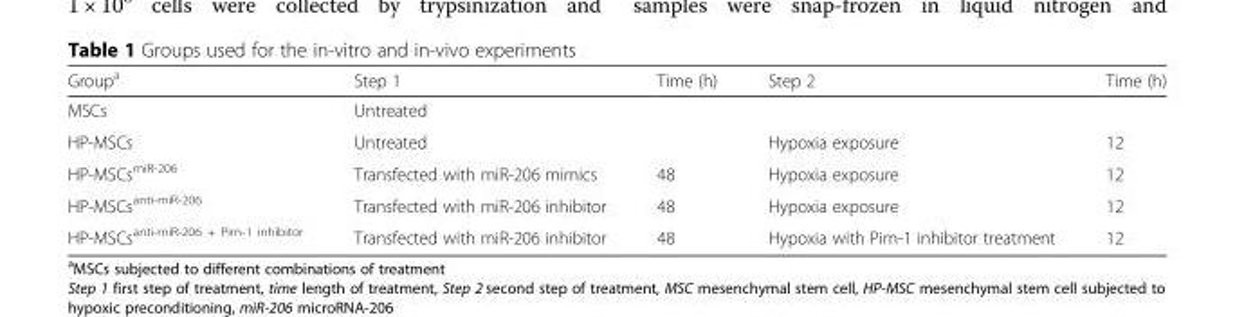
<table><thead><tr><td>Group<sup>a</sup></td><td>Step 1</td><td>Time (h)</td><td>Step 2</td><td>Time (h)</td></tr></thead><tbody><tr><td>MSCs</td><td>Untreated</td><td></td><td></td><td></td></tr><tr><td>HP-MSCs</td><td>Untreated</td><td></td><td>Hypoxia exposure</td><td>12</td></tr><tr><td>HP-MSCs<sup>miR-206</sup></td><td>Transfected with miR-206 mimics</td><td>48</td><td>Hypoxia exposure</td><td>12</td></tr><tr><td>HP-MSCs<sup>anti-miR-206</sup></td><td>Transfected with miR-206 inhibitor</td><td>48</td><td>Hypoxia exposure</td><td>12</td></tr><tr><td>HP-MSCs<sup>anti-miR-206 + Pim-1 inhibitor</sup></td><td>Transfected with miR-206 inhibitor</td><td>48</td><td>Hypoxia with Pim-1 inhibitor treatment</td><td>12</td></tr></tbody></table>